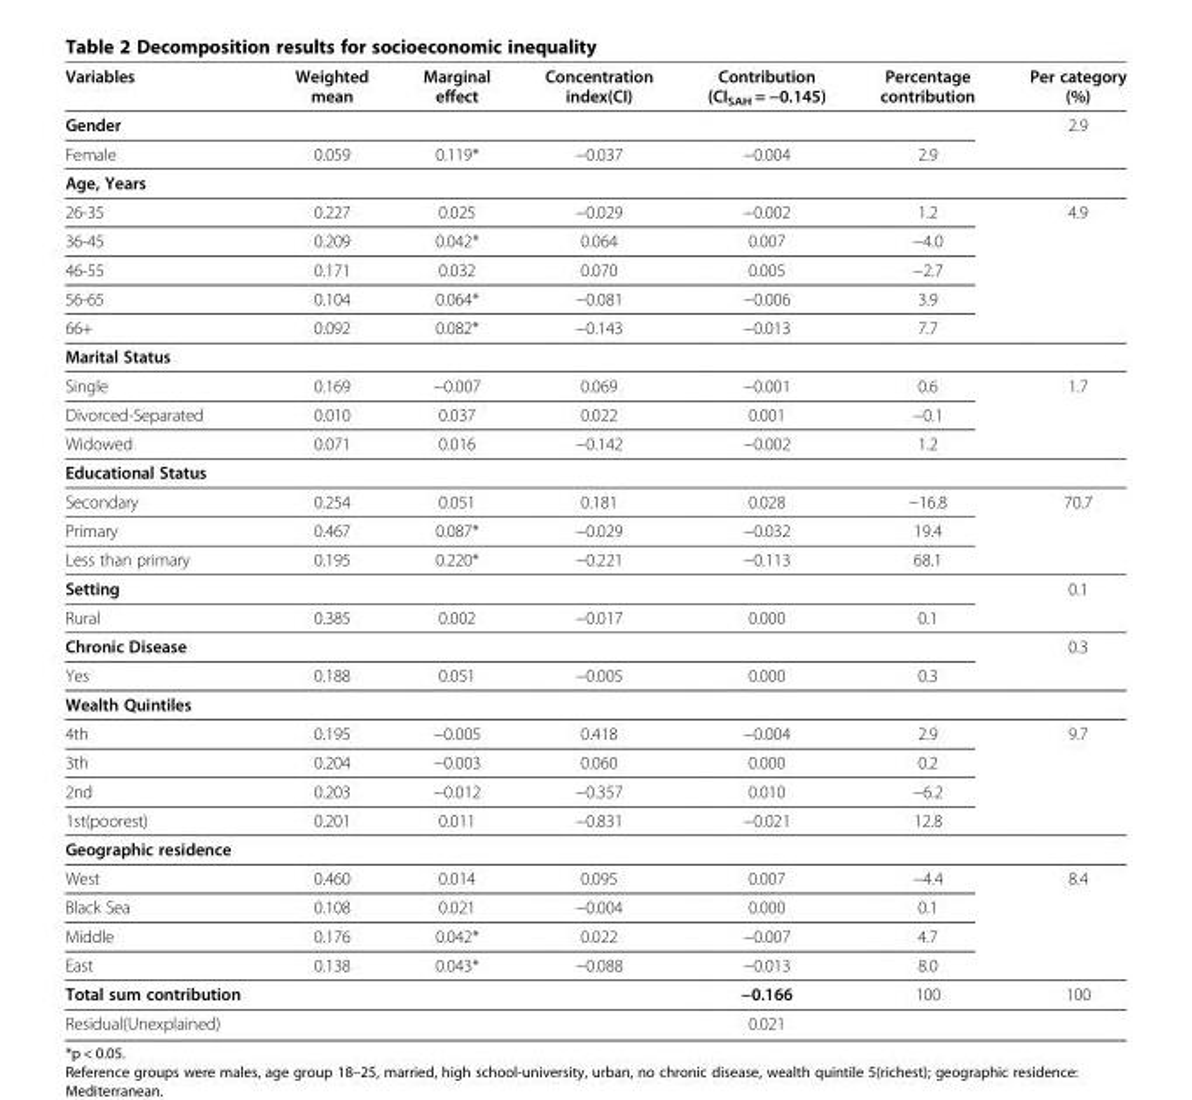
<table><thead><tr><td>Variables</td><td>Weighted mean</td><td>Marginal effect</td><td>Concentration index(CI)</td><td>Contribution (CI<sub>SAH</sub> = −0.145)</td><td>Percentage contribution</td><td>Per category (%)</td></tr></thead><tbody><tr><td colspan="6">Gender</td><td rowspan="2">2.9</td></tr><tr><td>Female</td><td>0.059</td><td>0.119*</td><td>−0.037</td><td>−0.004</td><td>2.9</td></tr><tr><td colspan="7">Age, Years</td></tr><tr><td>26-35</td><td>0.227</td><td>0.025</td><td>−0.029</td><td>−0.002</td><td>1.2</td><td rowspan="5">4.9</td></tr><tr><td>36-45</td><td>0.209</td><td>0.042*</td><td>0.064</td><td>0.007</td><td>−4.0</td></tr><tr><td>46-55</td><td>0.171</td><td>0.032</td><td>0.070</td><td>0.005</td><td>−2.7</td></tr><tr><td>56-65</td><td>0.104</td><td>0.064*</td><td>−0.081</td><td>−0.006</td><td>3.9</td></tr><tr><td>66+</td><td>0.092</td><td>0.082*</td><td>−0.143</td><td>−0.013</td><td>7.7</td></tr><tr><td colspan="7">Marital Status</td></tr><tr><td>Single</td><td>0.169</td><td>−0.007</td><td>0.069</td><td>−0.001</td><td>0.6</td><td rowspan="3">1.7</td></tr><tr><td>Divorced-Separated</td><td>0.010</td><td>0.037</td><td>0.022</td><td>0.001</td><td>−0.1</td></tr><tr><td>Widowed</td><td>0.071</td><td>0.016</td><td>−0.142</td><td>−0.002</td><td>1.2</td></tr><tr><td colspan="7">Educational Status</td></tr><tr><td>Secondary</td><td>0.254</td><td>0.051</td><td>0.181</td><td>0.028</td><td>−16.8</td><td rowspan="3">70.7</td></tr><tr><td>Primary</td><td>0.467</td><td>0.087*</td><td>−0.029</td><td>−0.032</td><td>19.4</td></tr><tr><td>Less than primary</td><td>0.195</td><td>0.220*</td><td>−0.221</td><td>−0.113</td><td>68.1</td></tr><tr><td colspan="6">Setting</td><td rowspan="2">0.1</td></tr><tr><td>Rural</td><td>0.385</td><td>0.002</td><td>−0.017</td><td>0.000</td><td>0.1</td></tr><tr><td colspan="6">Chronic Disease</td><td rowspan="2">0.3</td></tr><tr><td>Yes</td><td>0.188</td><td>0.051</td><td>−0.005</td><td>0.000</td><td>0.3</td></tr><tr><td colspan="7">Wealth Quintiles</td></tr><tr><td>4th</td><td>0.195</td><td>−0.005</td><td>0.418</td><td>−0.004</td><td>2.9</td><td rowspan="4">9.7</td></tr><tr><td>3th</td><td>0.204</td><td>−0.003</td><td>0.060</td><td>0.000</td><td>0.2</td></tr><tr><td>2nd</td><td>0.203</td><td>−0.012</td><td>−0.357</td><td>0.010</td><td>−6.2</td></tr><tr><td>1st(poorest)</td><td>0.201</td><td>0.011</td><td>−0.831</td><td>−0.021</td><td>12.8</td></tr><tr><td colspan="7">Geographic residence</td></tr><tr><td>West</td><td>0.460</td><td>0.014</td><td>0.095</td><td>0.007</td><td>−4.4</td><td rowspan="4">8.4</td></tr><tr><td>Black Sea</td><td>0.108</td><td>0.021</td><td>−0.004</td><td>0.000</td><td>0.1</td></tr><tr><td>Middle</td><td>0.176</td><td>0.042*</td><td>0.022</td><td>−0.007</td><td>4.7</td></tr><tr><td>East</td><td>0.138</td><td>0.043*</td><td>−0.088</td><td>−0.013</td><td>8.0</td></tr><tr><td>Total sum contribution</td><td></td><td></td><td></td><td>−0.166</td><td>100</td><td>100</td></tr><tr><td>Residual(Unexplained)</td><td></td><td></td><td></td><td>0.021</td><td></td><td></td></tr></tbody></table>